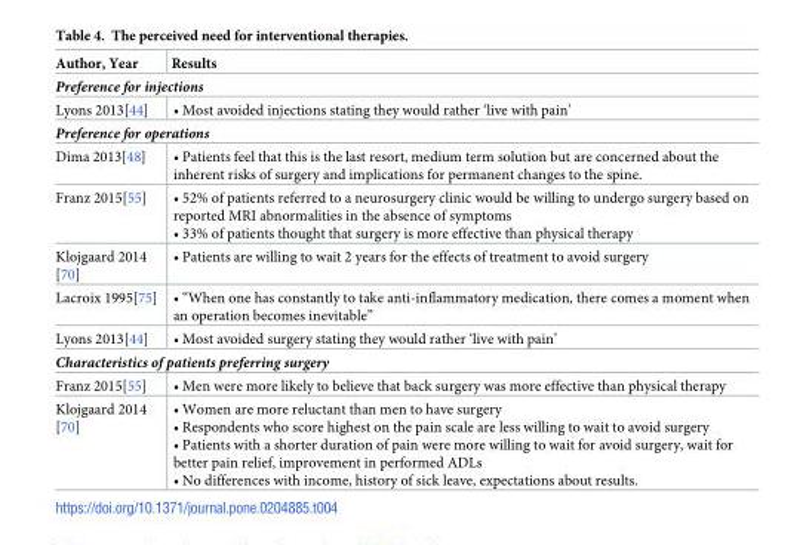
<table><thead><tr><td>Author, Year</td><td>Results</td></tr></thead><tbody><tr><td colspan="2">Preference for injections</td></tr><tr><td>Lyons 2013[44]</td><td>• Most avoided injections stating they would rather ‘live with pain’</td></tr><tr><td colspan="2">Preference for operations</td></tr><tr><td>Dima 2013[48]</td><td>• Patients feel that this is the last resort, medium term solution but are concerned about the inherent risks of surgery and implications for permanent changes to the spine.</td></tr><tr><td>Franz 2015[55]</td><td>• 52% of patients referred to a neurosurgery clinic would be willing to undergo surgery based on reported MRI abnormalities in the absence of symptoms • 33% of patients thought that surgery is more effective than physical therapy</td></tr><tr><td>Klojgaard 2014 [70]</td><td>• Patients are willing to wait 2 years for the effects of treatment to avoid surgery</td></tr><tr><td>Lacroix 1995[75]</td><td>• “When one has constantly to take anti-inflammatory medication, there comes a moment when an operation becomes inevitable”</td></tr><tr><td>Lyons 2013[44]</td><td>• Most avoided surgery stating they would rather ‘live with pain’</td></tr><tr><td colspan="2">Characteristics of patients preferring surgery</td></tr><tr><td>Franz 2015[55]</td><td>• Men were more likely to believe that back surgery was more effective than physical therapy</td></tr><tr><td>Klojgaard 2014 [70]</td><td>• Women are more reluctant than men to have surgery • Respondents who score highest on the pain scale are less willing to wait to avoid surgery • Patients with a shorter duration of pain were more willing to wait for avoid surgery, wait for better pain relief, improvement in performed ADLs • No differences with income, history of sick leave, expectations about results.</td></tr></tbody></table>